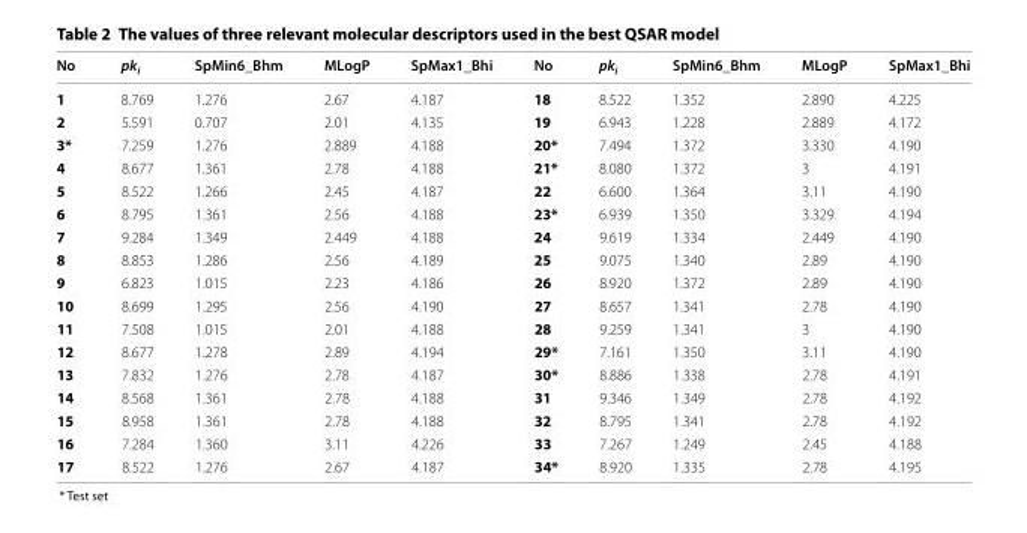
<table><thead><tr><td>No</td><td>pk<sub>i</sub></td><td>SpMin6_Bhm</td><td>MLogP</td><td>SpMax1_Bhi</td><td>No</td><td>pk<sub>i</sub></td><td>SpMin6_Bhm</td><td>MLogP</td><td>SpMax1_Bhi</td></tr></thead><tbody><tr><td>1</td><td>8.769</td><td>1.276</td><td>2.67</td><td>4.187</td><td>18</td><td>8.522</td><td>1.352</td><td>2.890</td><td>4.225</td></tr><tr><td>2</td><td>5.591</td><td>0.707</td><td>2.01</td><td>4.135</td><td>19</td><td>6.943</td><td>1.228</td><td>2.889</td><td>4.172</td></tr><tr><td>3*</td><td>7.259</td><td>1.276</td><td>2.889</td><td>4.188</td><td>20*</td><td>7.494</td><td>1.372</td><td>3.330</td><td>4.190</td></tr><tr><td>4</td><td>8.677</td><td>1.361</td><td>2.78</td><td>4.188</td><td>21*</td><td>8.080</td><td>1.372</td><td>3</td><td>4.191</td></tr><tr><td>5</td><td>8.522</td><td>1.266</td><td>2.45</td><td>4.187</td><td>22</td><td>6.600</td><td>1.364</td><td>3.11</td><td>4.190</td></tr><tr><td>6</td><td>8.795</td><td>1.361</td><td>2.56</td><td>4.188</td><td>23*</td><td>6.939</td><td>1.350</td><td>3.329</td><td>4.194</td></tr><tr><td>7</td><td>9.284</td><td>1.349</td><td>2.449</td><td>4.188</td><td>24</td><td>9.619</td><td>1.334</td><td>2.449</td><td>4.190</td></tr><tr><td>8</td><td>8.853</td><td>1.286</td><td>2.56</td><td>4.189</td><td>25</td><td>9.075</td><td>1.340</td><td>2.89</td><td>4.190</td></tr><tr><td>9</td><td>6.823</td><td>1.015</td><td>2.23</td><td>4.186</td><td>26</td><td>8.920</td><td>1.372</td><td>2.89</td><td>4.190</td></tr><tr><td>10</td><td>8.699</td><td>1.295</td><td>2.56</td><td>4.190</td><td>27</td><td>8.657</td><td>1.341</td><td>2.78</td><td>4.190</td></tr><tr><td>11</td><td>7.508</td><td>1.015</td><td>2.01</td><td>4.188</td><td>28</td><td>9.259</td><td>1.341</td><td>3</td><td>4.190</td></tr><tr><td>12</td><td>8.677</td><td>1.278</td><td>2.89</td><td>4.194</td><td>29*</td><td>7.161</td><td>1.350</td><td>3.11</td><td>4.190</td></tr><tr><td>13</td><td>7.832</td><td>1.276</td><td>2.78</td><td>4.187</td><td>30*</td><td>8.886</td><td>1.338</td><td>2.78</td><td>4.191</td></tr><tr><td>14</td><td>8.568</td><td>1.361</td><td>2.78</td><td>4.188</td><td>31</td><td>9.346</td><td>1.349</td><td>2.78</td><td>4.192</td></tr><tr><td>15</td><td>8.958</td><td>1.361</td><td>2.78</td><td>4.188</td><td>32</td><td>8.795</td><td>1.341</td><td>2.78</td><td>4.192</td></tr><tr><td>16</td><td>7.284</td><td>1.360</td><td>3.11</td><td>4.226</td><td>33</td><td>7.267</td><td>1.249</td><td>2.45</td><td>4.188</td></tr><tr><td>17</td><td>8.522</td><td>1.276</td><td>2.67</td><td>4.187</td><td>34*</td><td>8.920</td><td>1.335</td><td>2.78</td><td>4.195</td></tr></tbody></table>